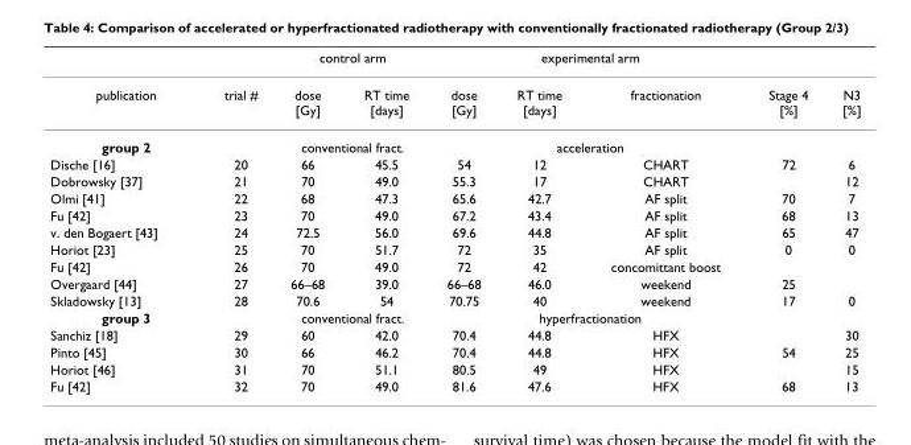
<table><thead><tr><td rowspan="2">publication</td><td rowspan="2">trial #</td><td colspan="2">control arm</td><td colspan="3">experimental arm</td><td rowspan="2">Stage 4 [%]</td><td rowspan="2">N3 [%]</td></tr><tr><td>dose [Gy]</td><td>RT time [days]</td><td>dose [Gy]</td><td>RT time [days]</td><td>fractionation</td></tr></thead><tbody><tr><td>group 2</td><td></td><td colspan="2">conventional fract.</td><td colspan="3">acceleration</td><td></td><td></td></tr><tr><td>Dische [16]</td><td>20</td><td>66</td><td>45.5</td><td>54</td><td>12</td><td>CHART</td><td>72</td><td>6</td></tr><tr><td>Dobrowsky [37]</td><td>21</td><td>70</td><td>49.0</td><td>55.3</td><td>17</td><td>CHART</td><td></td><td>12</td></tr><tr><td>Olmi [41]</td><td>22</td><td>68</td><td>47.3</td><td>65.6</td><td>42.7</td><td>AF split</td><td>70</td><td>7</td></tr><tr><td>Fu [42]</td><td>23</td><td>70</td><td>49.0</td><td>67.2</td><td>43.4</td><td>AF split</td><td>68</td><td>13</td></tr><tr><td>v. den Bogaert [43]</td><td>24</td><td>72.5</td><td>56.0</td><td>69.6</td><td>44.8</td><td>AF split</td><td>65</td><td>47</td></tr><tr><td>Horiot [23]</td><td>25</td><td>70</td><td>51.7</td><td>72</td><td>35</td><td>AF split</td><td>0</td><td>0</td></tr><tr><td>Fu [42]</td><td>26</td><td>70</td><td>49.0</td><td>72</td><td>42</td><td>concomittant boost</td><td></td><td></td></tr><tr><td>Overgaard [44]</td><td>27</td><td>66–68</td><td>39.0</td><td>66–68</td><td>46.0</td><td>weekend</td><td>25</td><td></td></tr><tr><td>Skladowsky [13]</td><td>28</td><td>70.6</td><td>54</td><td>70.75</td><td>40</td><td>weekend</td><td>17</td><td>0</td></tr><tr><td>group 3</td><td></td><td colspan="2">conventional fract.</td><td colspan="3">hyperfractionation</td><td></td><td></td></tr><tr><td>Sanchiz [18]</td><td>29</td><td>60</td><td>42.0</td><td>70.4</td><td>44.8</td><td>HFX</td><td></td><td>30</td></tr><tr><td>Pinto [45]</td><td>30</td><td>66</td><td>46.2</td><td>70.4</td><td>44.8</td><td>HFX</td><td>54</td><td>25</td></tr><tr><td>Horiot [46]</td><td>31</td><td>70</td><td>51.1</td><td>80.5</td><td>49</td><td>HFX</td><td></td><td>15</td></tr><tr><td>Fu [42]</td><td>32</td><td>70</td><td>49.0</td><td>81.6</td><td>47.6</td><td>HFX</td><td>68</td><td>13</td></tr></tbody></table>